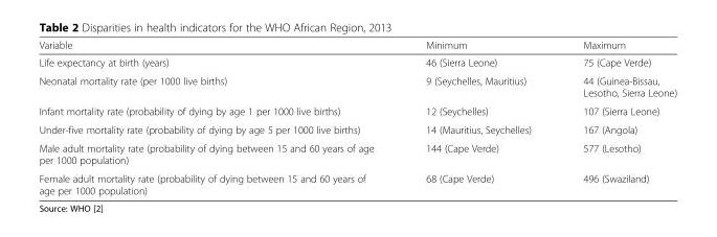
<table><thead><tr><td>Variable</td><td>Minimum</td><td>Maximum</td></tr></thead><tbody><tr><td>Life expectancy at birth (years)</td><td>46 (Sierra Leone)</td><td>75 (Cape Verde)</td></tr><tr><td>Neonatal mortality rate (per 1000 live births)</td><td>9 (Seychelles, Mauritius)</td><td>44 (Guinea-Bissau, Lesotho, Sierra Leone)</td></tr><tr><td>Infant mortality rate (probability of dying by age 1 per 1000 live births)</td><td>12 (Seychelles)</td><td>107 (Sierra Leone)</td></tr><tr><td>Under-five mortality rate (probability of dying by age 5 per 1000 live births)</td><td>14 (Mauritius, Seychelles)</td><td>167 (Angola)</td></tr><tr><td>Male adult mortality rate (probability of dying between 15 and 60 years of age per 1000 population)</td><td>144 (Cape Verde)</td><td>577 (Lesotho)</td></tr><tr><td>Female adult mortality rate (probability of dying between 15 and 60 years of age per 1000 population)</td><td>68 (Cape Verde)</td><td>496 (Swaziland)</td></tr></tbody></table>